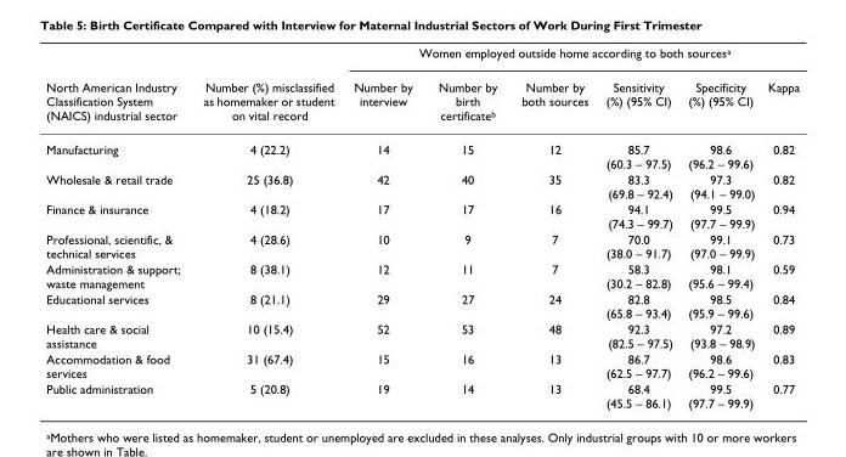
<table><thead><tr><td rowspan="2">North American Industry Classification System (NAICS) industrial sector</td><td rowspan="2">Number (%) misclassified as homemaker or student on vital record</td><td colspan="6">Women employed outside home according to both sources<sup>a</sup></td></tr><tr><td>Number by interview</td><td>Number by birth certificate<sup>b</sup></td><td>Number by both sources</td><td>Sensitivity (%) (95% CI)</td><td>Specificity (%) (95% CI)</td><td>Kappa</td></tr></thead><tbody><tr><td>Manufacturing</td><td>4 (22.2)</td><td>14</td><td>15</td><td>12</td><td>85.7 (60.3 – 97.5)</td><td>98.6 (96.2 – 99.6)</td><td>0.82</td></tr><tr><td>Wholesale &amp; retail trade</td><td>25 (36.8)</td><td>42</td><td>40</td><td>35</td><td>83.3 (69.8 – 92.4)</td><td>97.3 (94.1 – 99.0)</td><td>0.82</td></tr><tr><td>Finance &amp; insurance</td><td>4 (18.2)</td><td>17</td><td>17</td><td>16</td><td>94.1 (74.3 – 99.7)</td><td>99.5 (97.7 – 99.9)</td><td>0.94</td></tr><tr><td>Professional, scientific, &amp; technical services</td><td>4 (28.6)</td><td>10</td><td>9</td><td>7</td><td>70.0 (38.0 – 91.7)</td><td>99.1 (97.0 – 99.9)</td><td>0.73</td></tr><tr><td>Administration &amp; support; waste management</td><td>8 (38.1)</td><td>12</td><td>11</td><td>7</td><td>58.3 (30.2 – 82.8)</td><td>98.1 (95.6 – 99.4)</td><td>0.59</td></tr><tr><td>Educational services</td><td>8 (21.1)</td><td>29</td><td>27</td><td>24</td><td>82.8 (65.8 – 93.4)</td><td>98.5 (95.9 – 99.6)</td><td>0.84</td></tr><tr><td>Health care &amp; social assistance</td><td>10 (15.4)</td><td>52</td><td>53</td><td>48</td><td>92.3 (82.5 – 97.5)</td><td>97.2 (93.8 – 98.9)</td><td>0.89</td></tr><tr><td>Accommodation &amp; food services</td><td>31 (67.4)</td><td>15</td><td>16</td><td>13</td><td>86.7 (62.5 – 97.7)</td><td>98.6 (96.2 – 99.6)</td><td>0.83</td></tr><tr><td>Public administration</td><td>5 (20.8)</td><td>19</td><td>14</td><td>13</td><td>68.4 (45.5 – 86.1)</td><td>99.5 (97.7 – 99.9)</td><td>0.77</td></tr></tbody></table>